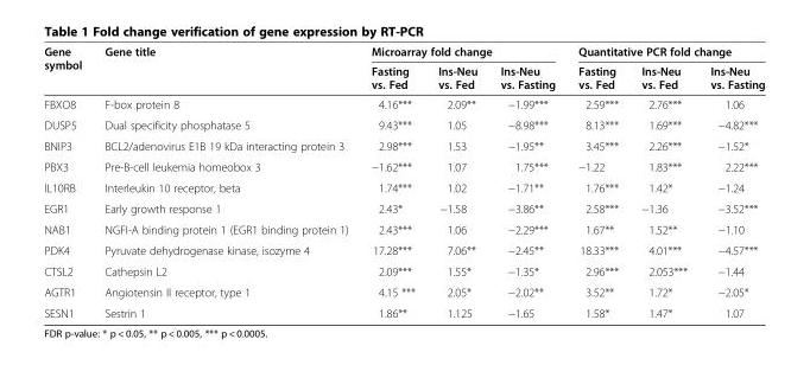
<table><thead><tr><td rowspan="2">Gene symbol</td><td rowspan="2">Gene title</td><td colspan="3">Microarray fold change</td><td colspan="3">Quantitative PCR fold change</td></tr><tr><td>Fasting vs. Fed</td><td>Ins-Neu vs. Fed</td><td>Ins-Neu vs. Fasting</td><td>Fasting vs. Fed</td><td>Ins-Neu vs. Fed</td><td>Ins-Neu vs. Fasting</td></tr></thead><tbody><tr><td>FBXO8</td><td>F-box protein 8</td><td>4.16***</td><td>2.09**</td><td>−1.99***</td><td>2.59***</td><td>2.76***</td><td>1.06</td></tr><tr><td>DUSP5</td><td>Dual specificity phosphatase 5</td><td>9.43***</td><td>1.05</td><td>−8.98***</td><td>8.13***</td><td>1.69***</td><td>−4.82***</td></tr><tr><td>BNIP3</td><td>BCL2/adenovirus E1B 19 kDa interacting protein 3</td><td>2.98***</td><td>1.53</td><td>−1.95**</td><td>3.45***</td><td>2.26***</td><td>−1.52*</td></tr><tr><td>PBX3</td><td>Pre-B-cell leukemia homeobox 3</td><td>−1.62***</td><td>1.07</td><td>1.75***</td><td>−1.22</td><td>1.83***</td><td>2.22***</td></tr><tr><td>IL10RB</td><td>Interleukin 10 receptor, beta</td><td>1.74***</td><td>1.02</td><td>−1.71**</td><td>1.76***</td><td>1.42*</td><td>−1.24</td></tr><tr><td>EGR1</td><td>Early growth response 1</td><td>2.43*</td><td>−1.58</td><td>−3.86**</td><td>2.58***</td><td>−1.36</td><td>−3.52***</td></tr><tr><td>NAB1</td><td>NGFI-A binding protein 1 (EGR1 binding protein 1)</td><td>2.43***</td><td>1.06</td><td>−2.29***</td><td>1.67**</td><td>1.52**</td><td>−1.10</td></tr><tr><td>PDK4</td><td>Pyruvate dehydrogenase kinase, isozyme 4</td><td>17.28***</td><td>7.06**</td><td>−2.45**</td><td>18.33***</td><td>4.01***</td><td>−4.57***</td></tr><tr><td>CTSL2</td><td>Cathepsin L2</td><td>2.09***</td><td>1.55*</td><td>−1.35*</td><td>2.96***</td><td>2.053***</td><td>−1.44</td></tr><tr><td>AGTR1</td><td>Angiotensin II receptor, type 1</td><td>4.15 ***</td><td>2.05*</td><td>−2.02**</td><td>3.52**</td><td>1.72*</td><td>−2.05*</td></tr><tr><td>SESN1</td><td>Sestrin 1</td><td>1.86**</td><td>1.125</td><td>−1.65</td><td>1.58*</td><td>1.47*</td><td>1.07</td></tr></tbody></table>